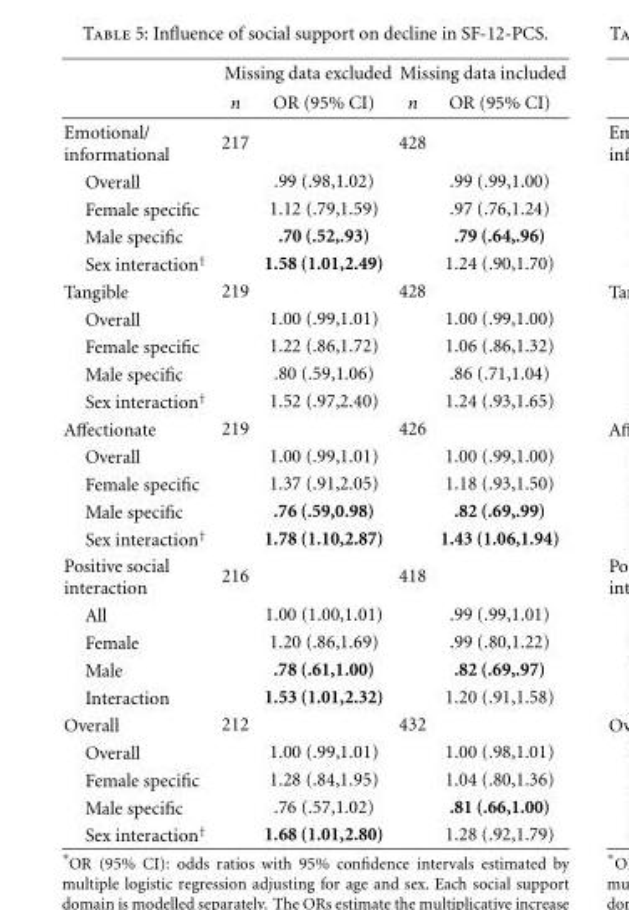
<table><thead><tr><td rowspan="2"></td><td colspan="2">Missing data excluded</td><td colspan="2">Missing data included</td></tr><tr><td>n</td><td>OR (95% CI)</td><td>n</td><td>OR (95% CI)</td></tr></thead><tbody><tr><td>Emotional/ informational</td><td>217</td><td></td><td>428</td><td></td></tr><tr><td>Overall</td><td></td><td>.99 (.98,1.02)</td><td></td><td>.99 (.99,1.00)</td></tr><tr><td>Female specific</td><td></td><td>1.12 (.79,1.59)</td><td></td><td>.97 (.76,1.24)</td></tr><tr><td>Male specific</td><td></td><td>.70 (.52,.93)</td><td></td><td>.79 (.64,.96)</td></tr><tr><td>Sex interaction<sup>†</sup></td><td></td><td>1.58 (1.01,2.49)</td><td></td><td>1.24 (.90,1.70)</td></tr><tr><td>Tangible</td><td>219</td><td></td><td>428</td><td></td></tr><tr><td>Overall</td><td></td><td>1.00 (.99,1.01)</td><td></td><td>1.00 (.99,1.00)</td></tr><tr><td>Female specific</td><td></td><td>1.22 (.86,1.72)</td><td></td><td>1.06 (.86,1.32)</td></tr><tr><td>Male specific</td><td></td><td>.80 (.59,1.06)</td><td></td><td>.86 (.71,1.04)</td></tr><tr><td>Sex interaction<sup>†</sup></td><td></td><td>1.52 (.97,2.40)</td><td></td><td>1.24 (.93,1.65)</td></tr><tr><td>Affectionate</td><td>219</td><td></td><td>426</td><td></td></tr><tr><td>Overall</td><td></td><td>1.00 (.99,1.01)</td><td></td><td>1.00 (.99,1.00)</td></tr><tr><td>Female specific</td><td></td><td>1.37 (.91,2.05)</td><td></td><td>1.18 (.93,1.50)</td></tr><tr><td>Male specific</td><td></td><td>.76 (.59,0.98)</td><td></td><td>.82 (.69,.99)</td></tr><tr><td>Sex interaction<sup>†</sup></td><td></td><td>1.78 (1.10,2.87)</td><td></td><td>1.43 (1.06,1.94)</td></tr><tr><td>Positive social interaction</td><td>216</td><td></td><td>418</td><td></td></tr><tr><td>All</td><td></td><td>1.00 (1.00,1.01)</td><td></td><td>.99 (.99,1.01)</td></tr><tr><td>Female</td><td></td><td>1.20 (.86,1.69)</td><td></td><td>.99 (.80,1.22)</td></tr><tr><td>Male</td><td></td><td>.78 (.61,1.00)</td><td></td><td>.82 (.69,.97)</td></tr><tr><td>Interaction</td><td></td><td>1.53 (1.01,2.32)</td><td></td><td>1.20 (.91,1.58)</td></tr><tr><td>Overall</td><td>212</td><td></td><td>432</td><td></td></tr><tr><td>Overall</td><td></td><td>1.00 (.99,1.01)</td><td></td><td>1.00 (.98,1.01)</td></tr><tr><td>Female specific</td><td></td><td>1.28 (.84,1.95)</td><td></td><td>1.04 (.80,1.36)</td></tr><tr><td>Male specific</td><td></td><td>.76 (.57,1.02)</td><td></td><td>.81 (.66,1.00)</td></tr><tr><td>Sex interaction<sup>†</sup></td><td></td><td>1.68 (1.01,2.80)</td><td></td><td>1.28 (.92,1.79)</td></tr></tbody></table>